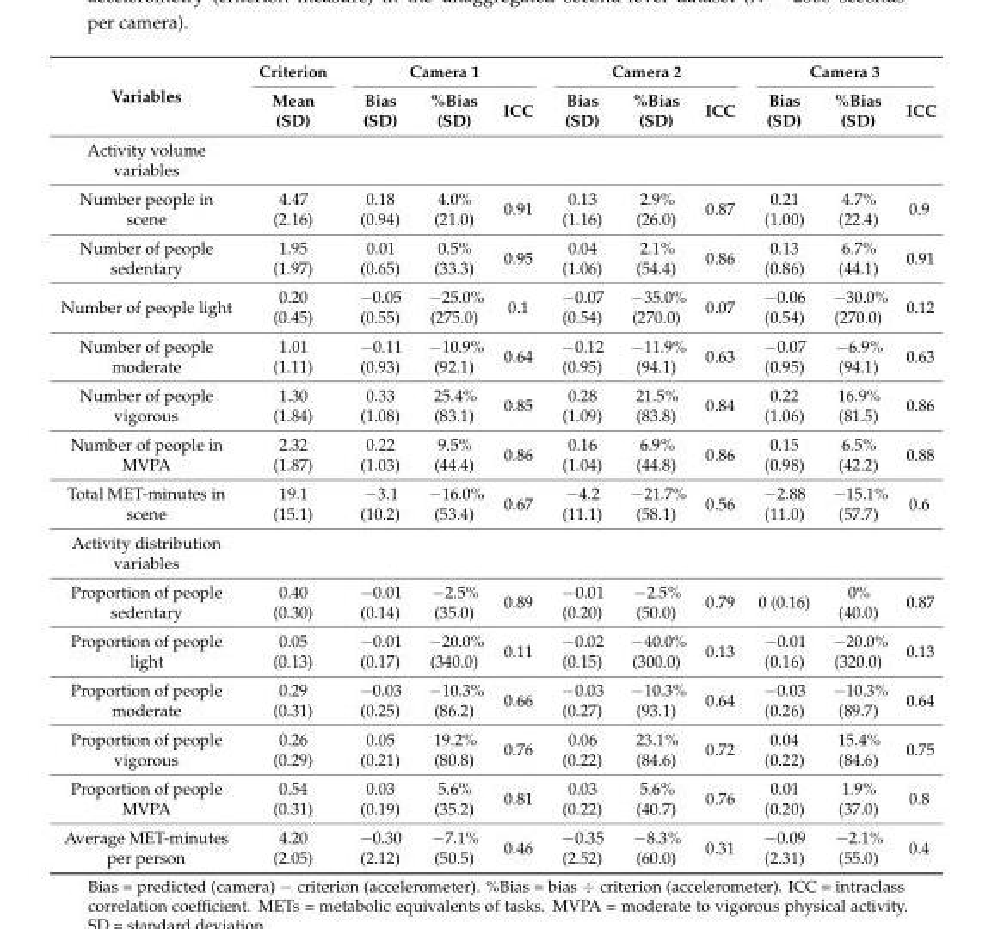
<table><thead><tr><td rowspan="2">Variables</td><td rowspan="2">Criterion Mean (SD)</td><td colspan="3">Camera 1</td><td colspan="3">Camera 2</td><td colspan="3">Camera 3</td></tr><tr><td>Bias (SD)</td><td>%Bias (SD)</td><td>ICC</td><td>Bias (SD)</td><td>%Bias (SD)</td><td>ICC</td><td>Bias (SD)</td><td>%Bias (SD)</td><td>ICC</td></tr></thead><tbody><tr><td colspan="11">Activity volume variables</td></tr><tr><td>Number people in scene</td><td>4.47 (2.16)</td><td>0.18 (0.94)</td><td>4.0% (21.0)</td><td>0.91</td><td>0.13 (1.16)</td><td>2.9% (26.0)</td><td>0.87</td><td>0.21 (1.00)</td><td>4.7% (22.4)</td><td>0.9</td></tr><tr><td>Number of people sedentary</td><td>1.95 (1.97)</td><td>0.01 (0.65)</td><td>0.5% (33.3)</td><td>0.95</td><td>0.04 (1.06)</td><td>2.1% (54.4)</td><td>0.86</td><td>0.13 (0.86)</td><td>6.7% (44.1)</td><td>0.91</td></tr><tr><td>Number of people light</td><td>0.20 (0.45)</td><td>−0.05 (0.55)</td><td>−25.0% (275.0)</td><td>0.1</td><td>−0.07 (0.54)</td><td>−35.0% (270.0)</td><td>0.07</td><td>−0.06 (0.54)</td><td>−30.0% (270.0)</td><td>0.12</td></tr><tr><td>Number of people moderate</td><td>1.01 (1.11)</td><td>−0.11 (0.93)</td><td>−10.9% (92.1)</td><td>0.64</td><td>−0.12 (0.95)</td><td>−11.9% (94.1)</td><td>0.63</td><td>−0.07 (0.95)</td><td>−6.9% (94.1)</td><td>0.63</td></tr><tr><td>Number of people vigorous</td><td>1.30 (1.84)</td><td>0.33 (1.08)</td><td>25.4% (83.1)</td><td>0.85</td><td>0.28 (1.09)</td><td>21.5% (83.8)</td><td>0.84</td><td>0.22 (1.06)</td><td>16.9% (81.5)</td><td>0.86</td></tr><tr><td>Number of people in MVPA</td><td>2.32 (1.87)</td><td>0.22 (1.03)</td><td>9.5% (44.4)</td><td>0.86</td><td>0.16 (1.04)</td><td>6.9% (44.8)</td><td>0.86</td><td>0.15 (0.98)</td><td>6.5% (42.2)</td><td>0.88</td></tr><tr><td>Total MET-minutes in scene</td><td>19.1 (15.1)</td><td>−3.1 (10.2)</td><td>−16.0% (53.4)</td><td>0.67</td><td>−4.2 (11.1)</td><td>−21.7% (58.1)</td><td>0.56</td><td>−2.88 (11.0)</td><td>−15.1% (57.7)</td><td>0.6</td></tr><tr><td colspan="11">Activity distribution variables</td></tr><tr><td>Proportion of people sedentary</td><td>0.40 (0.30)</td><td>−0.01 (0.14)</td><td>−2.5% (35.0)</td><td>0.89</td><td>−0.01 (0.20)</td><td>−2.5% (50.0)</td><td>0.79</td><td>0 (0.16)</td><td>0% (40.0)</td><td>0.87</td></tr><tr><td>Proportion of people light</td><td>0.05 (0.13)</td><td>−0.01 (0.17)</td><td>−20.0% (340.0)</td><td>0.11</td><td>−0.02 (0.15)</td><td>−40.0% (300.0)</td><td>0.13</td><td>−0.01 (0.16)</td><td>−20.0% (320.0)</td><td>0.13</td></tr><tr><td>Proportion of people moderate</td><td>0.29 (0.31)</td><td>−0.03 (0.25)</td><td>−10.3% (86.2)</td><td>0.66</td><td>−0.03 (0.27)</td><td>−10.3% (93.1)</td><td>0.64</td><td>−0.03 (0.26)</td><td>−10.3% (89.7)</td><td>0.64</td></tr><tr><td>Proportion of people vigorous</td><td>0.26 (0.29)</td><td>0.05 (0.21)</td><td>19.2% (80.8)</td><td>0.76</td><td>0.06 (0.22)</td><td>23.1% (84.6)</td><td>0.72</td><td>0.04 (0.22)</td><td>15.4% (84.6)</td><td>0.75</td></tr><tr><td>Proportion of people MVPA</td><td>0.54 (0.31)</td><td>0.03 (0.19)</td><td>5.6% (35.2)</td><td>0.81</td><td>0.03 (0.22)</td><td>5.6% (40.7)</td><td>0.76</td><td>0.01 (0.20)</td><td>1.9% (37.0)</td><td>0.8</td></tr><tr><td>Average MET-minutes per person</td><td>4.20 (2.05)</td><td>−0.30 (2.12)</td><td>−7.1% (50.5)</td><td>0.46</td><td>−0.35 (2.52)</td><td>−8.3% (60.0)</td><td>0.31</td><td>−0.09 (2.31)</td><td>−2.1% (55.0)</td><td>0.4</td></tr></tbody></table>